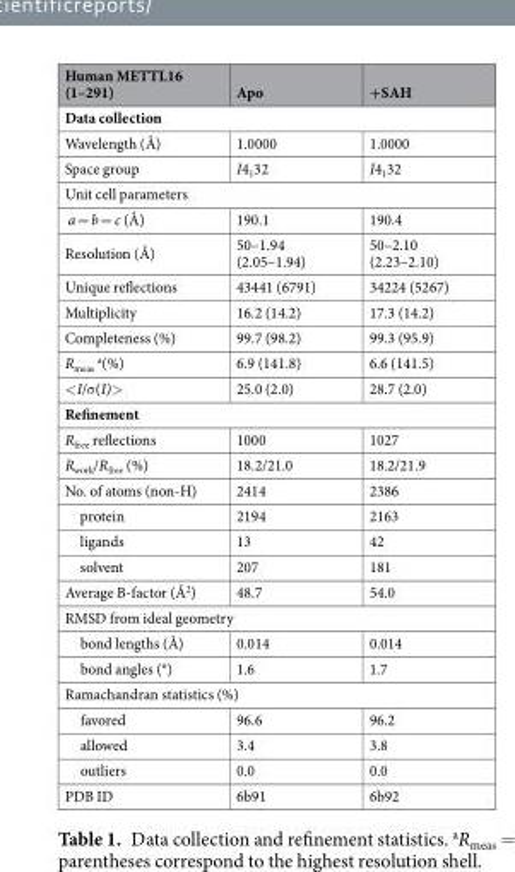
<table><thead><tr><td>Human METTL16 (1–291)</td><td>Apo</td><td>+SAH</td></tr></thead><tbody><tr><td colspan="3">Data collection</td></tr><tr><td>Wavelength (Å)</td><td>1.0000</td><td>1.0000</td></tr><tr><td>Space group</td><td>I4<sub>1</sub>32</td><td>I4<sub>1</sub>32</td></tr><tr><td colspan="3">Unit cell parameters</td></tr><tr><td>a = b = c (Å)</td><td>190.1</td><td>190.4</td></tr><tr><td>Resolution (Å)</td><td>50–1.94 (2.05–1.94)</td><td>50–2.10 (2.23–2.10)</td></tr><tr><td>Unique reflections</td><td>43441 (6791)</td><td>34224 (5267)</td></tr><tr><td>Multiplicity</td><td>16.2 (14.2)</td><td>17.3 (14.2)</td></tr><tr><td>Completeness (%)</td><td>99.7 (98.2)</td><td>99.3 (95.9)</td></tr><tr><td>R<sub>meas</sub> <sup>a</sup>(%)</td><td>6.9 (141.8)</td><td>6.6 (141.5)</td></tr><tr><td>&lt;I/σ(I)&gt;</td><td>25.0 (2.0)</td><td>28.7 (2.0)</td></tr><tr><td colspan="3">Refinement</td></tr><tr><td>R<sub>free</sub> reflections</td><td>1000</td><td>1027</td></tr><tr><td>R<sub>work</sub>/R<sub>free</sub> (%)</td><td>18.2/21.0</td><td>18.2/21.9</td></tr><tr><td>No. of atoms (non-H)</td><td>2414</td><td>2386</td></tr><tr><td>protein</td><td>2194</td><td>2163</td></tr><tr><td>ligands</td><td>13</td><td>42</td></tr><tr><td>solvent</td><td>207</td><td>181</td></tr><tr><td>Average B-factor (Å<sup>2</sup>)</td><td>48.7</td><td>54.0</td></tr><tr><td colspan="3">RMSD from ideal geometry</td></tr><tr><td>bond lengths (Å)</td><td>0.014</td><td>0.014</td></tr><tr><td>bond angles (°)</td><td>1.6</td><td>1.7</td></tr><tr><td colspan="3">Ramachandran statistics (%)</td></tr><tr><td>favored</td><td>96.6</td><td>96.2</td></tr><tr><td>allowed</td><td>3.4</td><td>3.8</td></tr><tr><td>outliers</td><td>0.0</td><td>0.0</td></tr><tr><td>PDB ID</td><td>6b91</td><td>6b92</td></tr></tbody></table>